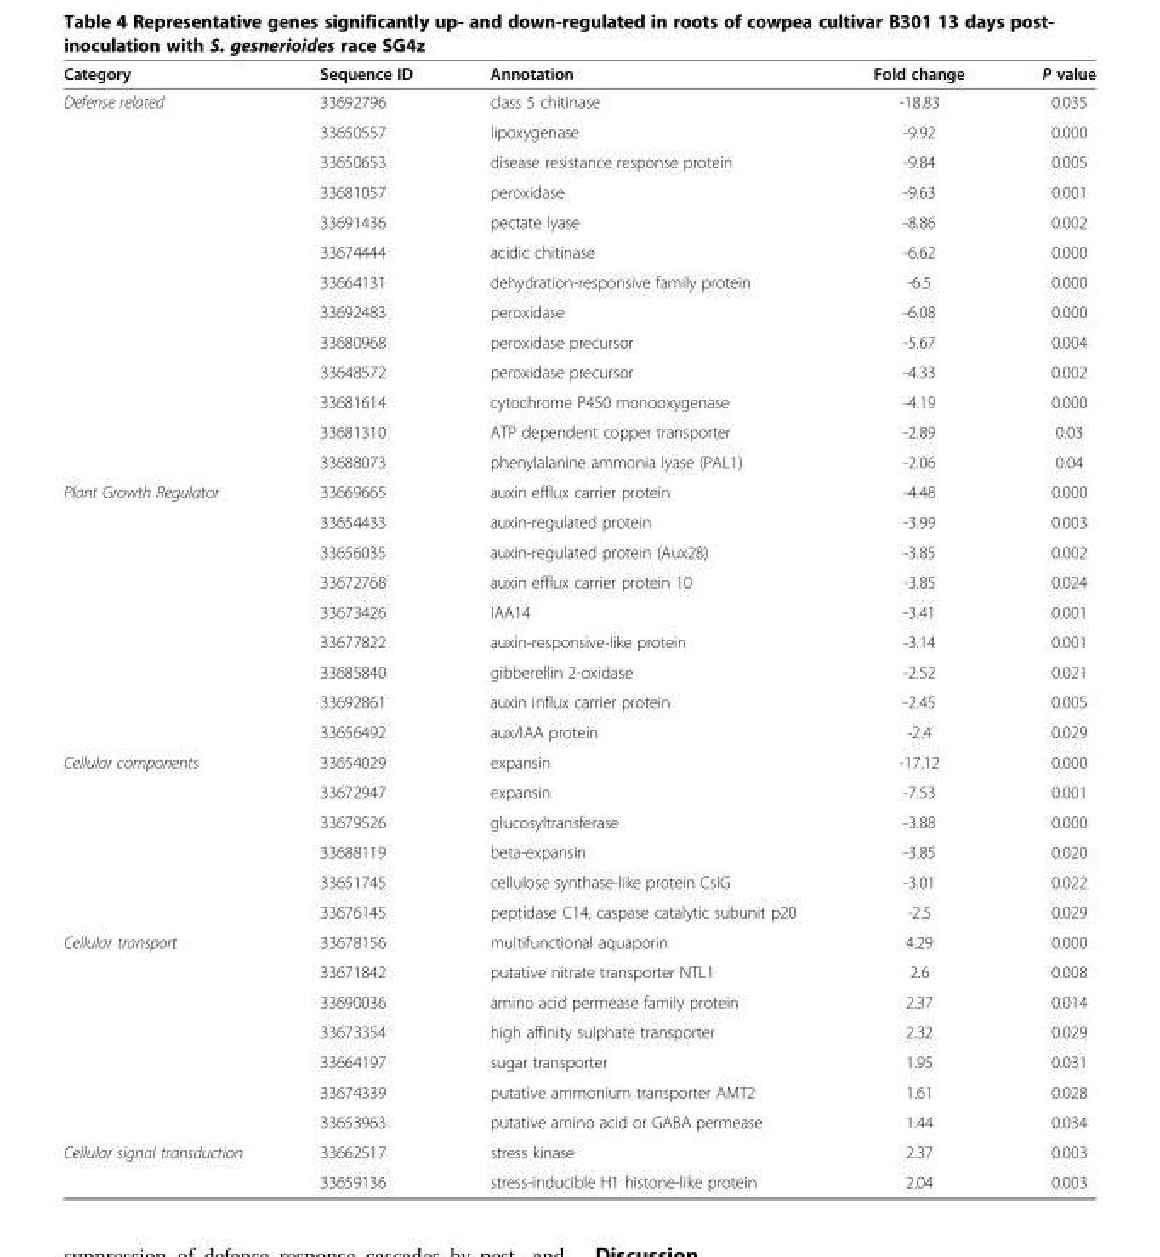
<table><thead><tr><td>Category</td><td>Sequence ID</td><td>Annotation</td><td>Fold change</td><td>P value</td></tr></thead><tbody><tr><td rowspan="13">Defense related</td><td>33692796</td><td>class 5 chitinase</td><td>-18.83</td><td>0.035</td></tr><tr><td>33650557</td><td>lipoxygenase</td><td>-9.92</td><td>0.000</td></tr><tr><td>33650653</td><td>disease resistance response protein</td><td>-9.84</td><td>0.005</td></tr><tr><td>33681057</td><td>peroxidase</td><td>-9.63</td><td>0.001</td></tr><tr><td>33691436</td><td>pectate lyase</td><td>-8.86</td><td>0.002</td></tr><tr><td>33674444</td><td>acidic chitinase</td><td>-6.62</td><td>0.000</td></tr><tr><td>33664131</td><td>dehydration-responsive family protein</td><td>-6.5</td><td>0.000</td></tr><tr><td>33692483</td><td>peroxidase</td><td>-6.08</td><td>0.000</td></tr><tr><td>33680968</td><td>peroxidase precursor</td><td>-5.67</td><td>0.004</td></tr><tr><td>33648572</td><td>peroxidase precursor</td><td>-4.33</td><td>0.002</td></tr><tr><td>33681614</td><td>cytochrome P450 monooxygenase</td><td>-4.19</td><td>0.000</td></tr><tr><td>33681310</td><td>ATP dependent copper transporter</td><td>-2.89</td><td>0.03</td></tr><tr><td>33688073</td><td>phenylalanine ammonia lyase (PAL1)</td><td>-2.06</td><td>0.04</td></tr><tr><td rowspan="9">Plant Growth Regulator</td><td>33669665</td><td>auxin efflux carrier protein</td><td>-4.48</td><td>0.000</td></tr><tr><td>33654433</td><td>auxin-regulated protein</td><td>-3.99</td><td>0.003</td></tr><tr><td>33656035</td><td>auxin-regulated protein (Aux28)</td><td>-3.85</td><td>0.002</td></tr><tr><td>33672768</td><td>auxin efflux carrier protein 10</td><td>-3.85</td><td>0.024</td></tr><tr><td>33673426</td><td>IAA14</td><td>-3.41</td><td>0.001</td></tr><tr><td>33677822</td><td>auxin-responsive-like protein</td><td>-3.14</td><td>0.001</td></tr><tr><td>33685840</td><td>gibberellin 2-oxidase</td><td>-2.52</td><td>0.021</td></tr><tr><td>33692861</td><td>auxin influx carrier protein</td><td>-2.45</td><td>0.005</td></tr><tr><td>33656492</td><td>aux/IAA protein</td><td>-2.4</td><td>0.029</td></tr><tr><td rowspan="6">Cellular components</td><td>33654029</td><td>expansin</td><td>-17.12</td><td>0.000</td></tr><tr><td>33672947</td><td>expansin</td><td>-7.53</td><td>0.001</td></tr><tr><td>33679526</td><td>glucosyltransferase</td><td>-3.88</td><td>0.000</td></tr><tr><td>33688119</td><td>beta-expansin</td><td>-3.85</td><td>0.020</td></tr><tr><td>33651745</td><td>cellulose synthase-like protein CslG</td><td>-3.01</td><td>0.022</td></tr><tr><td>33676145</td><td>peptidase C14, caspase catalytic subunit p20</td><td>-2.5</td><td>0.029</td></tr><tr><td rowspan="7">Cellular transport</td><td>33678156</td><td>multifunctional aquaporin</td><td>4.29</td><td>0.000</td></tr><tr><td>33671842</td><td>putative nitrate transporter NTL1</td><td>2.6</td><td>0.008</td></tr><tr><td>33690036</td><td>amino acid permease family protein</td><td>2.37</td><td>0.014</td></tr><tr><td>33673354</td><td>high affinity sulphate transporter</td><td>2.32</td><td>0.029</td></tr><tr><td>33664197</td><td>sugar transporter</td><td>1.95</td><td>0.031</td></tr><tr><td>33674339</td><td>putative ammonium transporter AMT2</td><td>1.61</td><td>0.028</td></tr><tr><td>33653963</td><td>putative amino acid or GABA permease</td><td>1.44</td><td>0.034</td></tr><tr><td rowspan="2">Cellular signal transduction</td><td>33662517</td><td>stress kinase</td><td>2.37</td><td>0.003</td></tr><tr><td>33659136</td><td>stress-inducible H1 histone-like protein</td><td>2.04</td><td>0.003</td></tr></tbody></table>